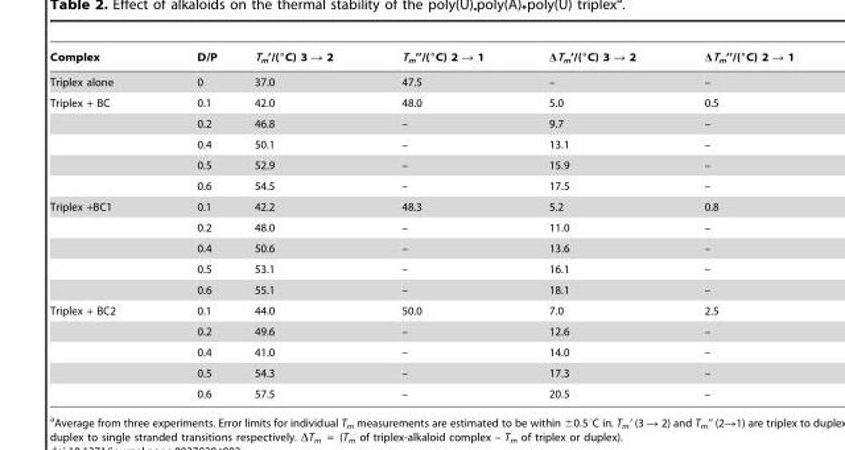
<table><thead><tr><td>Complex</td><td>D/P</td><td>T<sub>m</sub>’/(°C) 3 → 2</td><td>T<sub>m</sub>’’/(°C) 2 → 1</td><td>ΔT<sub>m</sub>’/(°C) 3 → 2</td><td>ΔT<sub>m</sub>’’/(°C) 2 → 1</td></tr></thead><tbody><tr><td>Triplex alone</td><td>0</td><td>37.0</td><td>47.5</td><td>–</td><td>–</td></tr><tr><td rowspan="5">Triplex + BC</td><td>0.1</td><td>42.0</td><td>48.0</td><td>5.0</td><td>0.5</td></tr><tr><td>0.2</td><td>46.8</td><td>–</td><td>9.7</td><td>–</td></tr><tr><td>0.4</td><td>50.1</td><td>–</td><td>13.1</td><td>–</td></tr><tr><td>0.5</td><td>52.9</td><td>–</td><td>15.9</td><td>–</td></tr><tr><td>0.6</td><td>54.5</td><td>–</td><td>17.5</td><td>–</td></tr><tr><td rowspan="5">Triplex +BC1</td><td>0.1</td><td>42.2</td><td>48.3</td><td>5.2</td><td>0.8</td></tr><tr><td>0.2</td><td>48.0</td><td>–</td><td>11.0</td><td>–</td></tr><tr><td>0.4</td><td>50.6</td><td>–</td><td>13.6</td><td>–</td></tr><tr><td>0.5</td><td>53.1</td><td>–</td><td>16.1</td><td>–</td></tr><tr><td>0.6</td><td>55.1</td><td>–</td><td>18.1</td><td>–</td></tr><tr><td rowspan="5">Triplex + BC2</td><td>0.1</td><td>44.0</td><td>50.0</td><td>7.0</td><td>2.5</td></tr><tr><td>0.2</td><td>49.6</td><td>–</td><td>12.6</td><td>–</td></tr><tr><td>0.4</td><td>41.0</td><td>–</td><td>14.0</td><td>–</td></tr><tr><td>0.5</td><td>54.3</td><td>–</td><td>17.3</td><td>–</td></tr><tr><td>0.6</td><td>57.5</td><td>–</td><td>20.5</td><td>–</td></tr></tbody></table>